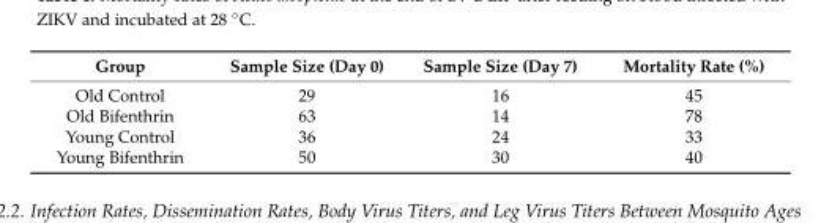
<table><thead><tr><td>Group</td><td>Sample Size (Day 0)</td><td>Sample Size (Day 7)</td><td>Mortality Rate (%)</td></tr></thead><tbody><tr><td>Old Control</td><td>29</td><td>16</td><td>45</td></tr><tr><td>Old Bifenthrin</td><td>63</td><td>14</td><td>78</td></tr><tr><td>Young Control</td><td>36</td><td>24</td><td>33</td></tr><tr><td>Young Bifenthrin</td><td>50</td><td>30</td><td>40</td></tr></tbody></table>